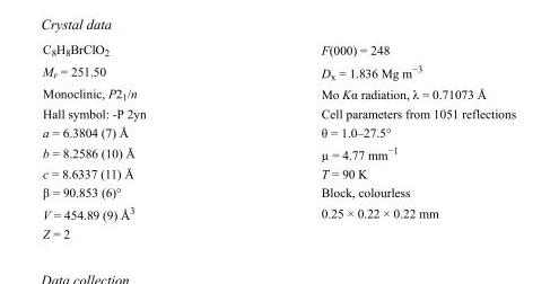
<table><tbody><tr><td>C<sub>8</sub>H<sub>8</sub>BrClO<sub>2</sub></td><td>F(000) = 248</td></tr><tr><td>M<sub>r</sub> = 251.50</td><td>D<sub>x</sub> = 1.836 Mg m<sup>−3</sup></td></tr><tr><td>Monoclinic, P2<sub>1</sub>/n</td><td>Mo Kα radiation, λ = 0.71073 Å</td></tr><tr><td>Hall symbol: -P 2yn</td><td>Cell parameters from 1051 reflections</td></tr><tr><td>a = 6.3804 (7) Å</td><td>θ = 1.0–27.5°</td></tr><tr><td>b = 8.2586 (10) Å</td><td>µ = 4.77 mm<sup>−1</sup></td></tr><tr><td>c = 8.6337 (11) Å</td><td>T = 90 K</td></tr><tr><td>β = 90.853 (6)°</td><td>Block, colourless</td></tr><tr><td>V = 454.89 (9) Å<sup>3</sup></td><td>0.25 × 0.22 × 0.22 mm</td></tr><tr><td>Z = 2</td><td></td></tr></tbody></table>